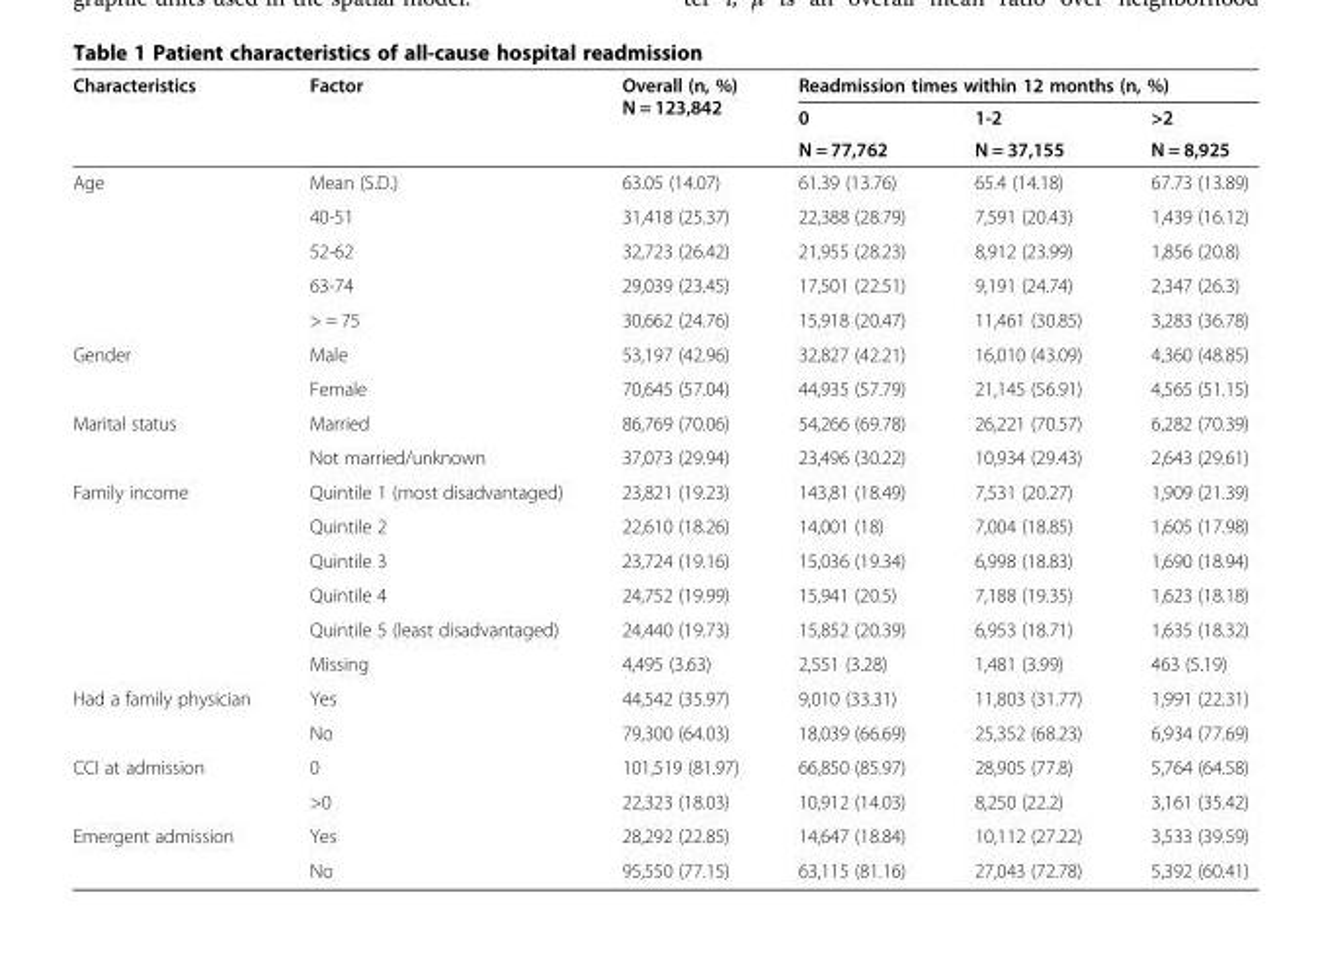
<table><thead><tr><td rowspan="3">Characteristics</td><td rowspan="3">Factor</td><td rowspan="3">Overall (n, %) N = 123,842</td><td colspan="3">Readmission times within 12 months (n, %)</td></tr><tr><td rowspan="2">0 N = 77,762</td><td rowspan="2">1-2 N = 37,155</td><td rowspan="2">&gt;2 N = 8,925</td></tr><tr></tr></thead><tbody><tr><td rowspan="5">Age</td><td>Mean (S.D.)</td><td>63.05 (14.07)</td><td>61.39 (13.76)</td><td>65.4 (14.18)</td><td>67.73 (13.89)</td></tr><tr><td>40-51</td><td>31,418 (25.37)</td><td>22,388 (28.79)</td><td>7,591 (20.43)</td><td>1,439 (16.12)</td></tr><tr><td>52-62</td><td>32,723 (26.42)</td><td>21,955 (28.23)</td><td>8,912 (23.99)</td><td>1,856 (20.8)</td></tr><tr><td>63-74</td><td>29,039 (23.45)</td><td>17,501 (22.51)</td><td>9,191 (24.74)</td><td>2,347 (26.3)</td></tr><tr><td>&gt; = 75</td><td>30,662 (24.76)</td><td>15,918 (20.47)</td><td>11,461 (30.85)</td><td>3,283 (36.78)</td></tr><tr><td rowspan="2">Gender</td><td>Male</td><td>53,197 (42.96)</td><td>32,827 (42.21)</td><td>16,010 (43.09)</td><td>4,360 (48.85)</td></tr><tr><td>Female</td><td>70,645 (57.04)</td><td>44,935 (57.79)</td><td>21,145 (56.91)</td><td>4,565 (51.15)</td></tr><tr><td rowspan="2">Marital status</td><td>Married</td><td>86,769 (70.06)</td><td>54,266 (69.78)</td><td>26,221 (70.57)</td><td>6,282 (70.39)</td></tr><tr><td>Not married/unknown</td><td>37,073 (29.94)</td><td>23,496 (30.22)</td><td>10,934 (29.43)</td><td>2,643 (29.61)</td></tr><tr><td rowspan="6">Family income</td><td>Quintile 1 (most disadvantaged)</td><td>23,821 (19.23)</td><td>143,81 (18.49)</td><td>7,531 (20.27)</td><td>1,909 (21.39)</td></tr><tr><td>Quintile 2</td><td>22,610 (18.26)</td><td>14,001 (18)</td><td>7,004 (18.85)</td><td>1,605 (17.98)</td></tr><tr><td>Quintile 3</td><td>23,724 (19.16)</td><td>15,036 (19.34)</td><td>6,998 (18.83)</td><td>1,690 (18.94)</td></tr><tr><td>Quintile 4</td><td>24,752 (19.99)</td><td>15,941 (20.5)</td><td>7,188 (19.35)</td><td>1,623 (18.18)</td></tr><tr><td>Quintile 5 (least disadvantaged)</td><td>24,440 (19.73)</td><td>15,852 (20.39)</td><td>6,953 (18.71)</td><td>1,635 (18.32)</td></tr><tr><td>Missing</td><td>4,495 (3.63)</td><td>2,551 (3.28)</td><td>1,481 (3.99)</td><td>463 (5.19)</td></tr><tr><td rowspan="2">Had a family physician</td><td>Yes</td><td>44,542 (35.97)</td><td>9,010 (33.31)</td><td>11,803 (31.77)</td><td>1,991 (22.31)</td></tr><tr><td>No</td><td>79,300 (64.03)</td><td>18,039 (66.69)</td><td>25,352 (68.23)</td><td>6,934 (77.69)</td></tr><tr><td rowspan="2">CCI at admission</td><td>0</td><td>101,519 (81.97)</td><td>66,850 (85.97)</td><td>28,905 (77.8)</td><td>5,764 (64.58)</td></tr><tr><td>&gt;0</td><td>22,323 (18.03)</td><td>10,912 (14.03)</td><td>8,250 (22.2)</td><td>3,161 (35.42)</td></tr><tr><td rowspan="2">Emergent admission</td><td>Yes</td><td>28,292 (22.85)</td><td>14,647 (18.84)</td><td>10,112 (27.22)</td><td>3,533 (39.59)</td></tr><tr><td>No</td><td>95,550 (77.15)</td><td>63,115 (81.16)</td><td>27,043 (72.78)</td><td>5,392 (60.41)</td></tr></tbody></table>